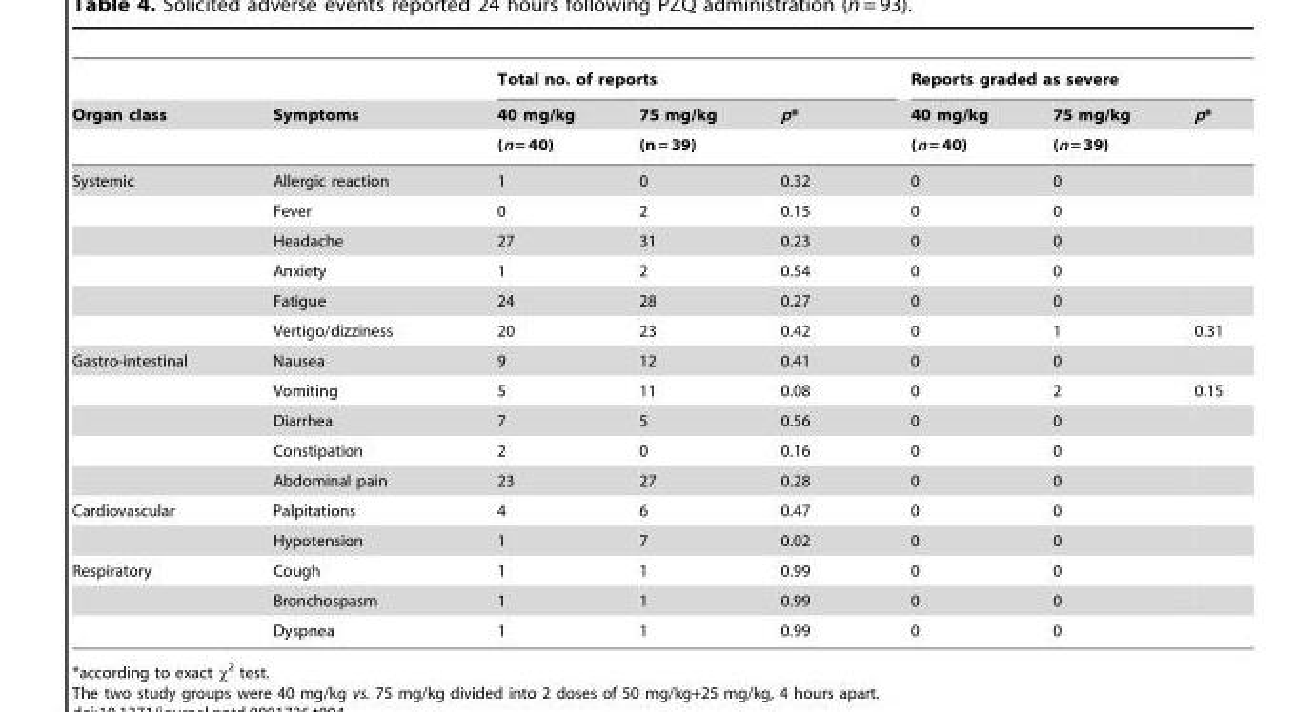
<table><thead><tr><td rowspan="3">Organ class</td><td rowspan="3">Symptoms</td><td colspan="3">Total no. of reports</td><td colspan="3">Reports graded as severe</td></tr><tr><td rowspan="2">40 mg/kg (n = 40)</td><td rowspan="2">75 mg/kg (n = 39)</td><td rowspan="2">p*</td><td rowspan="2">40 mg/kg (n = 40)</td><td rowspan="2">75 mg/kg (n = 39)</td><td rowspan="2">p*</td></tr><tr></tr></thead><tbody><tr><td rowspan="6">Systemic</td><td>Allergic reaction</td><td>1</td><td>0</td><td>0.32</td><td>0</td><td>0</td><td></td></tr><tr><td>Fever</td><td>0</td><td>2</td><td>0.15</td><td>0</td><td>0</td><td></td></tr><tr><td>Headache</td><td>27</td><td>31</td><td>0.23</td><td>0</td><td>0</td><td></td></tr><tr><td>Anxiety</td><td>1</td><td>2</td><td>0.54</td><td>0</td><td>0</td><td></td></tr><tr><td>Fatigue</td><td>24</td><td>28</td><td>0.27</td><td>0</td><td>0</td><td></td></tr><tr><td>Vertigo/dizziness</td><td>20</td><td>23</td><td>0.42</td><td>0</td><td>1</td><td>0.31</td></tr><tr><td rowspan="5">Gastro-intestinal</td><td>Nausea</td><td>9</td><td>12</td><td>0.41</td><td>0</td><td>0</td><td></td></tr><tr><td>Vomiting</td><td>5</td><td>11</td><td>0.08</td><td>0</td><td>2</td><td>0.15</td></tr><tr><td>Diarrhea</td><td>7</td><td>5</td><td>0.56</td><td>0</td><td>0</td><td></td></tr><tr><td>Constipation</td><td>2</td><td>0</td><td>0.16</td><td>0</td><td>0</td><td></td></tr><tr><td>Abdominal pain</td><td>23</td><td>27</td><td>0.28</td><td>0</td><td>0</td><td></td></tr><tr><td rowspan="2">Cardiovascular</td><td>Palpitations</td><td>4</td><td>6</td><td>0.47</td><td>0</td><td>0</td><td></td></tr><tr><td>Hypotension</td><td>1</td><td>7</td><td>0.02</td><td>0</td><td>0</td><td></td></tr><tr><td rowspan="3">Respiratory</td><td>Cough</td><td>1</td><td>1</td><td>0.99</td><td>0</td><td>0</td><td></td></tr><tr><td>Bronchospasm</td><td>1</td><td>1</td><td>0.99</td><td>0</td><td>0</td><td></td></tr><tr><td>Dyspnea</td><td>1</td><td>1</td><td>0.99</td><td>0</td><td>0</td><td></td></tr></tbody></table>